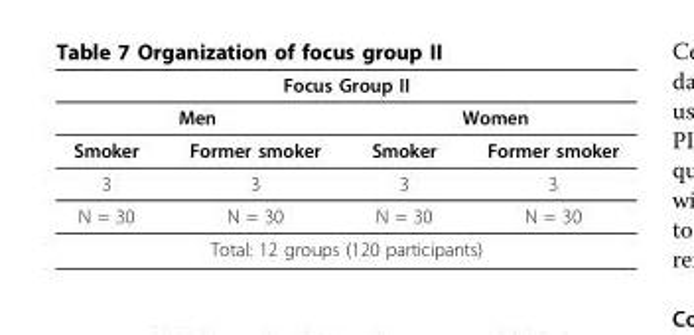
<table><thead><tr><td colspan="4">Focus Group II</td></tr><tr><td colspan="2">Men</td><td colspan="2">Women</td></tr><tr><td>Smoker</td><td>Former smoker</td><td>Smoker</td><td>Former smoker</td></tr></thead><tbody><tr><td>3</td><td>3</td><td>3</td><td>3</td></tr><tr><td>N = 30</td><td>N = 30</td><td>N = 30</td><td>N = 30</td></tr><tr><td colspan="4">Total: 12 groups (120 participants)</td></tr></tbody></table>